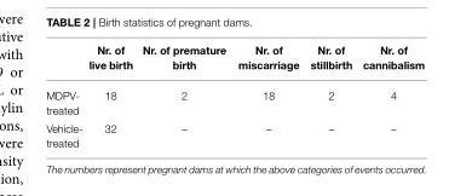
<table><thead><tr><td></td><td>Nr. of live birth</td><td>Nr. of premature birth</td><td>Nr. of miscarriage</td><td>Nr. of stillbirth</td><td>Nr. of cannibalism</td></tr></thead><tbody><tr><td>MDPV- treated</td><td>18</td><td>2</td><td>18</td><td>2</td><td>4</td></tr><tr><td>Vehicle- treated</td><td>32</td><td>–</td><td>–</td><td>–</td><td>–</td></tr></tbody></table>